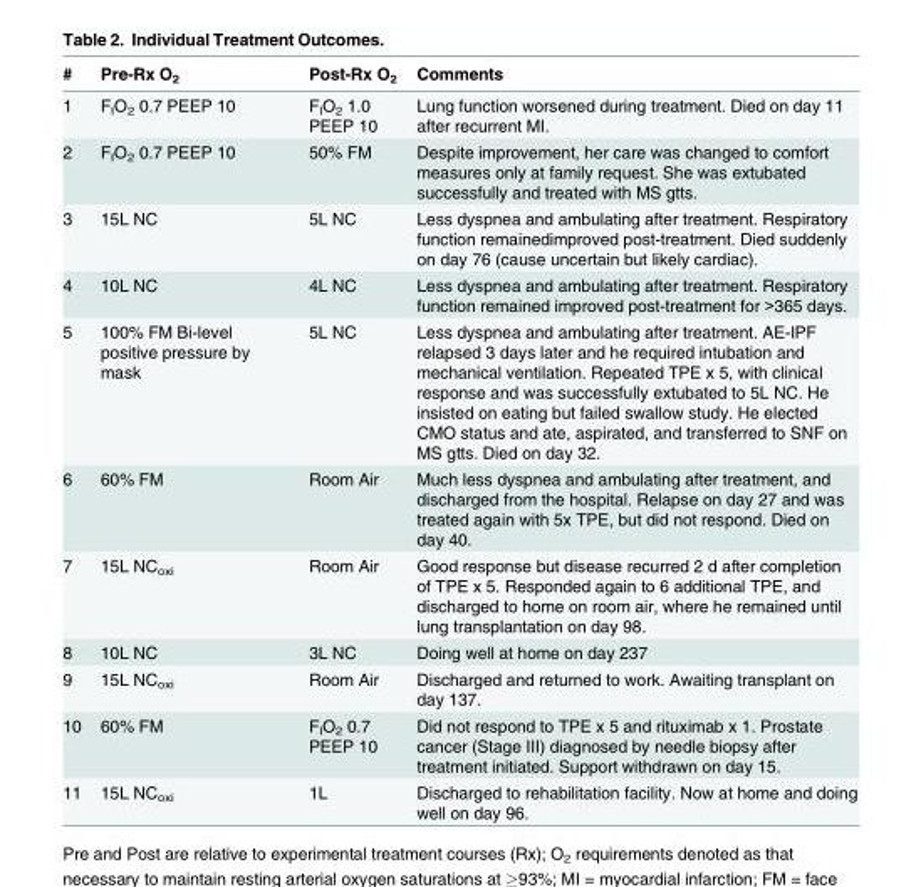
<table><thead><tr><td>#</td><td>Pre-Rx O<sub>2</sub></td><td>Post-Rx O<sub>2</sub></td><td>Comments</td></tr></thead><tbody><tr><td>1</td><td>F<sub>I</sub>O<sub>2</sub> 0.7 PEEP 10</td><td>F<sub>I</sub>O<sub>2</sub> 1.0 PEEP 10</td><td>Lung function worsened during treatment. Died on day 11 after recurrent MI.</td></tr><tr><td>2</td><td>F<sub>I</sub>O<sub>2</sub> 0.7 PEEP 10</td><td>50% FM</td><td>Despite improvement, her care was changed to comfort measures only at family request. She was extubated successfully and treated with MS gtts.</td></tr><tr><td>3</td><td>15L NC</td><td>5L NC</td><td>Less dyspnea and ambulating after treatment. Respiratory function remainedimproved post-treatment. Died suddenly on day 76 (cause uncertain but likely cardiac).</td></tr><tr><td>4</td><td>10L NC</td><td>4L NC</td><td>Less dyspnea and ambulating after treatment. Respiratory function remained improved post-treatment for &gt;365 days.</td></tr><tr><td>5</td><td>100% FM Bi-level positive pressure by mask</td><td>5L NC</td><td>Less dyspnea and ambulating after treatment. AE-IPF relapsed 3 days later and he required intubation and mechanical ventilation. Repeated TPE x 5, with clinical response and was successfully extubated to 5L NC. He insisted on eating but failed swallow study. He elected CMO status and ate, aspirated, and transferred to SNF on MS gtts. Died on day 32.</td></tr><tr><td>6</td><td>60% FM</td><td>Room Air</td><td>Much less dyspnea and ambulating after treatment, and discharged from the hospital. Relapse on day 27 and was treated again with 5x TPE, but did not respond. Died on day 40.</td></tr><tr><td>7</td><td>15L NC<sub>oxi</sub></td><td>Room Air</td><td>Good response but disease recurred 2 d after completion of TPE x 5. Responded again to 6 additional TPE, and discharged to home on room air, where he remained until lung transplantation on day 98.</td></tr><tr><td>8</td><td>10L NC</td><td>3L NC</td><td>Doing well at home on day 237</td></tr><tr><td>9</td><td>15L NC<sub>oxi</sub></td><td>Room Air</td><td>Discharged and returned to work. Awaiting transplant on day 137.</td></tr><tr><td>10</td><td>60% FM</td><td>F<sub>I</sub>O<sub>2</sub> 0.7 PEEP 10</td><td>Did not respond to TPE x 5 and rituximab x 1. Prostate cancer (Stage III) diagnosed by needle biopsy after treatment initiated. Support withdrawn on day 15.</td></tr><tr><td>11</td><td>15L NC<sub>oxi</sub></td><td>1L</td><td>Discharged to rehabilitation facility. Now at home and doing well on day 96.</td></tr></tbody></table>